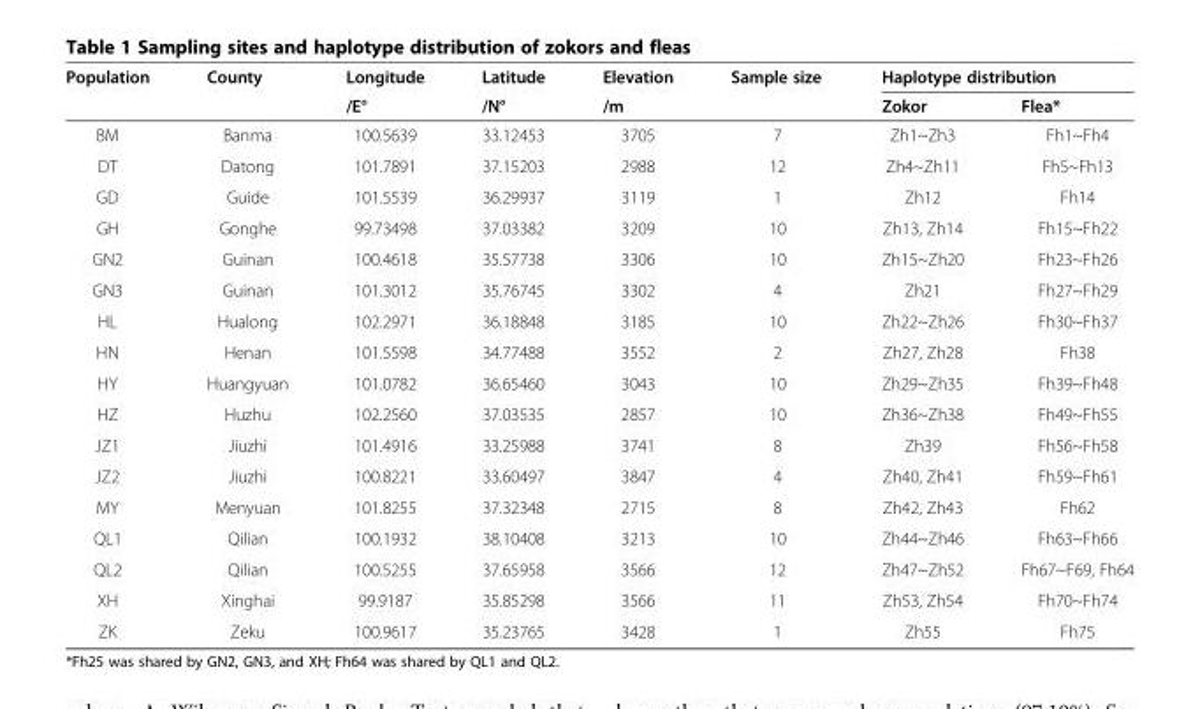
<table><thead><tr><td rowspan="2">Population</td><td rowspan="2">County</td><td rowspan="2">Longitude /E°</td><td rowspan="2">Latitude /N°</td><td rowspan="2">Elevation /m</td><td rowspan="2">Sample size</td><td colspan="2">Haplotype distribution</td></tr><tr><td>Zokor</td><td>Flea*</td></tr></thead><tbody><tr><td>BM</td><td>Banma</td><td>100.5639</td><td>33.12453</td><td>3705</td><td>7</td><td>Zh1~Zh3</td><td>Fh1~Fh4</td></tr><tr><td>DT</td><td>Datong</td><td>101.7891</td><td>37.15203</td><td>2988</td><td>12</td><td>Zh4~Zh11</td><td>Fh5~Fh13</td></tr><tr><td>GD</td><td>Guide</td><td>101.5539</td><td>36.29937</td><td>3119</td><td>1</td><td>Zh12</td><td>Fh14</td></tr><tr><td>GH</td><td>Gonghe</td><td>99.73498</td><td>37.03382</td><td>3209</td><td>10</td><td>Zh13, Zh14</td><td>Fh15~Fh22</td></tr><tr><td>GN2</td><td>Guinan</td><td>100.4618</td><td>35.57738</td><td>3306</td><td>10</td><td>Zh15~Zh20</td><td>Fh23~Fh26</td></tr><tr><td>GN3</td><td>Guinan</td><td>101.3012</td><td>35.76745</td><td>3302</td><td>4</td><td>Zh21</td><td>Fh27~Fh29</td></tr><tr><td>HL</td><td>Hualong</td><td>102.2971</td><td>36.18848</td><td>3185</td><td>10</td><td>Zh22~Zh26</td><td>Fh30~Fh37</td></tr><tr><td>HN</td><td>Henan</td><td>101.5598</td><td>34.77488</td><td>3552</td><td>2</td><td>Zh27, Zh28</td><td>Fh38</td></tr><tr><td>HY</td><td>Huangyuan</td><td>101.0782</td><td>36.65460</td><td>3043</td><td>10</td><td>Zh29~Zh35</td><td>Fh39~Fh48</td></tr><tr><td>HZ</td><td>Huzhu</td><td>102.2560</td><td>37.03535</td><td>2857</td><td>10</td><td>Zh36~Zh38</td><td>Fh49~Fh55</td></tr><tr><td>JZ1</td><td>Jiuzhi</td><td>101.4916</td><td>33.25988</td><td>3741</td><td>8</td><td>Zh39</td><td>Fh56~Fh58</td></tr><tr><td>JZ2</td><td>Jiuzhi</td><td>100.8221</td><td>33.60497</td><td>3847</td><td>4</td><td>Zh40, Zh41</td><td>Fh59~Fh61</td></tr><tr><td>MY</td><td>Menyuan</td><td>101.8255</td><td>37.32348</td><td>2715</td><td>8</td><td>Zh42, Zh43</td><td>Fh62</td></tr><tr><td>QL1</td><td>Qilian</td><td>100.1932</td><td>38.10408</td><td>3213</td><td>10</td><td>Zh44~Zh46</td><td>Fh63~Fh66</td></tr><tr><td>QL2</td><td>Qilian</td><td>100.5255</td><td>37.65958</td><td>3566</td><td>12</td><td>Zh47~Zh52</td><td>Fh67~F69, Fh64</td></tr><tr><td>XH</td><td>Xinghai</td><td>99.9187</td><td>35.85298</td><td>3566</td><td>11</td><td>Zh53, Zh54</td><td>Fh70~Fh74</td></tr><tr><td>ZK</td><td>Zeku</td><td>100.9617</td><td>35.23765</td><td>3428</td><td>1</td><td>Zh55</td><td>Fh75</td></tr></tbody></table>